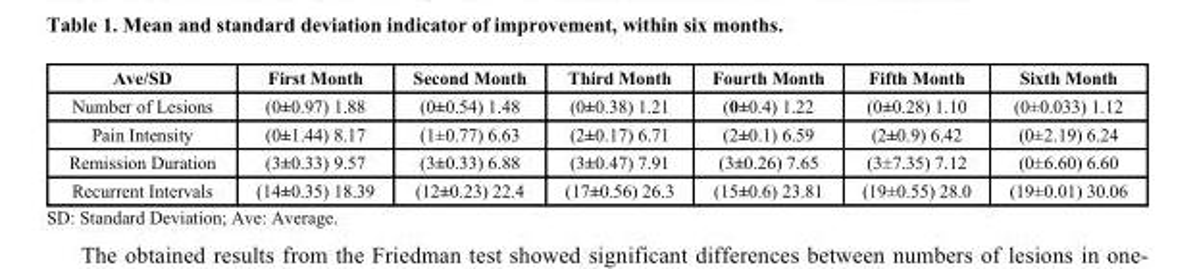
<table><thead><tr><td>Ave/SD</td><td>First Month</td><td>Second Month</td><td>Third Month</td><td>Fourth Month</td><td>Fifth Month</td><td>Sixth Month</td></tr></thead><tbody><tr><td>Number of Lesions</td><td>(0±0.97) 1.88</td><td>(0±0.54) 1.48</td><td>(0±0.38) 1.21</td><td>(0±0.4) 1.22</td><td>(0±0.28) 1.10</td><td>(0±0.033) 1.12</td></tr><tr><td>Pain Intensity</td><td>(0±1.44) 8.17</td><td>(1±0.77) 6.63</td><td>(2±0.17) 6.71</td><td>(2±0.1) 6.59</td><td>(2±0.9) 6.42</td><td>(0±2.19) 6.24</td></tr><tr><td>Remission Duration</td><td>(3±0.33) 9.57</td><td>(3±0.33) 6.88</td><td>(3±0.47) 7.91</td><td>(3±0.26) 7.65</td><td>(3±7.35) 7.12</td><td>(0±6.60) 6.60</td></tr><tr><td>Recurrent Intervals</td><td>(14±0.35) 18.39</td><td>(12±0.23) 22.4</td><td>(17±0.56) 26.3</td><td>(15±0.6) 23.81</td><td>(19±0.55) 28.0</td><td>(19±0.01) 30.06</td></tr></tbody></table>